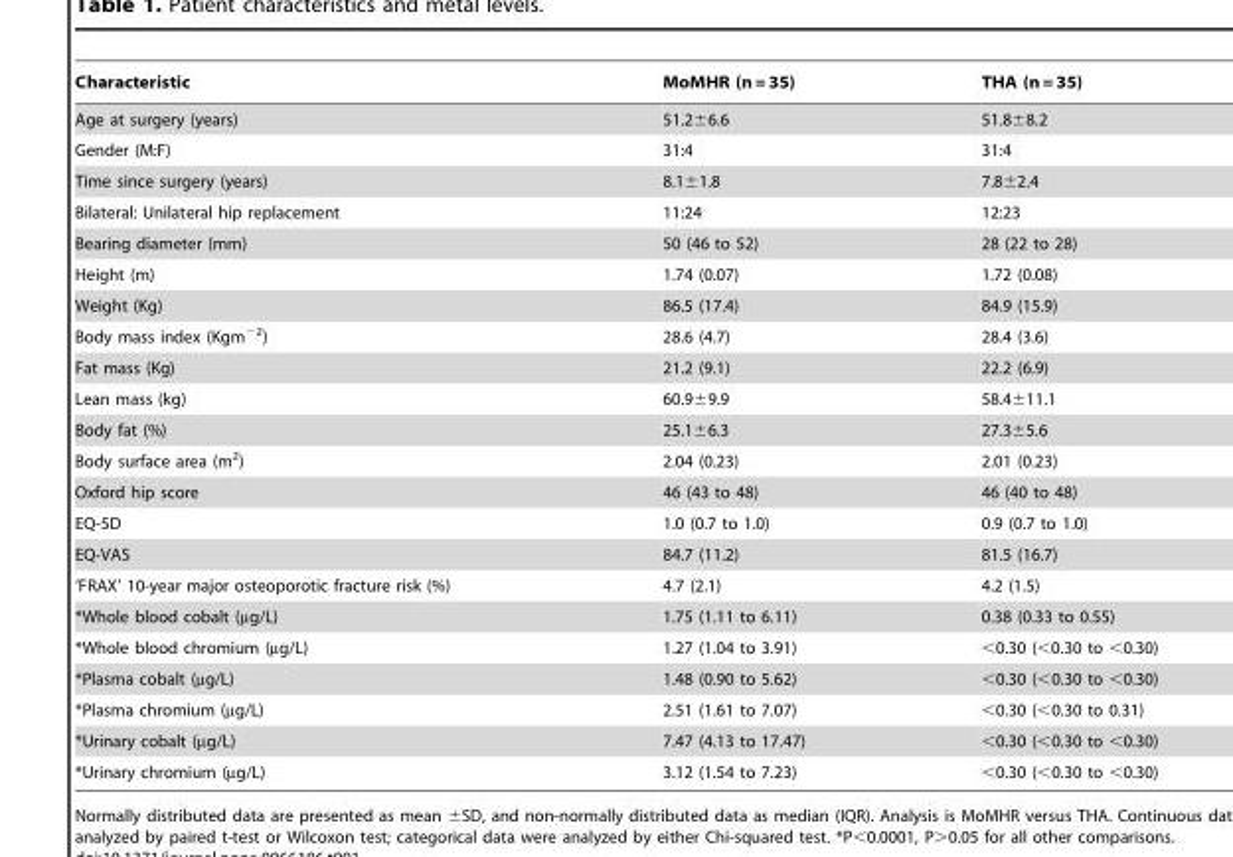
<table><thead><tr><td>Characteristic</td><td>MoMHR (n = 35)</td><td>THA (n = 35)</td></tr></thead><tbody><tr><td>Age at surgery (years)</td><td>51.2±6.6</td><td>51.8±8.2</td></tr><tr><td>Gender (M:F)</td><td>31:4</td><td>31:4</td></tr><tr><td>Time since surgery (years)</td><td>8.1±1.8</td><td>7.8±2.4</td></tr><tr><td>Bilateral: Unilateral hip replacement</td><td>11:24</td><td>12:23</td></tr><tr><td>Bearing diameter (mm)</td><td>50 (46 to 52)</td><td>28 (22 to 28)</td></tr><tr><td>Height (m)</td><td>1.74 (0.07)</td><td>1.72 (0.08)</td></tr><tr><td>Weight (Kg)</td><td>86.5 (17.4)</td><td>84.9 (15.9)</td></tr><tr><td>Body mass index (Kgm<sup>−2</sup>)</td><td>28.6 (4.7)</td><td>28.4 (3.6)</td></tr><tr><td>Fat mass (Kg)</td><td>21.2 (9.1)</td><td>22.2 (6.9)</td></tr><tr><td>Lean mass (kg)</td><td>60.9±9.9</td><td>58.4±11.1</td></tr><tr><td>Body fat (%)</td><td>25.1±6.3</td><td>27.3±5.6</td></tr><tr><td>Body surface area (m<sup>2</sup>)</td><td>2.04 (0.23)</td><td>2.01 (0.23)</td></tr><tr><td>Oxford hip score</td><td>46 (43 to 48)</td><td>46 (40 to 48)</td></tr><tr><td>EQ-5D</td><td>1.0 (0.7 to 1.0)</td><td>0.9 (0.7 to 1.0)</td></tr><tr><td>EQ-VAS</td><td>84.7 (11.2)</td><td>81.5 (16.7)</td></tr><tr><td>‘FRAX’ 10-year major osteoporotic fracture risk (%)</td><td>4.7 (2.1)</td><td>4.2 (1.5)</td></tr><tr><td>*Whole blood cobalt (µg/L)</td><td>1.75 (1.11 to 6.11)</td><td>0.38 (0.33 to 0.55)</td></tr><tr><td>*Whole blood chromium (µg/L)</td><td>1.27 (1.04 to 3.91)</td><td>&lt;0.30 (&lt;0.30 to &lt;0.30)</td></tr><tr><td>*Plasma cobalt (µg/L)</td><td>1.48 (0.90 to 5.62)</td><td>&lt;0.30 (&lt;0.30 to &lt;0.30)</td></tr><tr><td>*Plasma chromium (µg/L)</td><td>2.51 (1.61 to 7.07)</td><td>&lt;0.30 (&lt;0.30 to 0.31)</td></tr><tr><td>*Urinary cobalt (µg/L)</td><td>7.47 (4.13 to 17.47)</td><td>&lt;0.30 (&lt;0.30 to &lt;0.30)</td></tr><tr><td>*Urinary chromium (µg/L)</td><td>3.12 (1.54 to 7.23)</td><td>&lt;0.30 (&lt;0.30 to &lt;0.30)</td></tr></tbody></table>